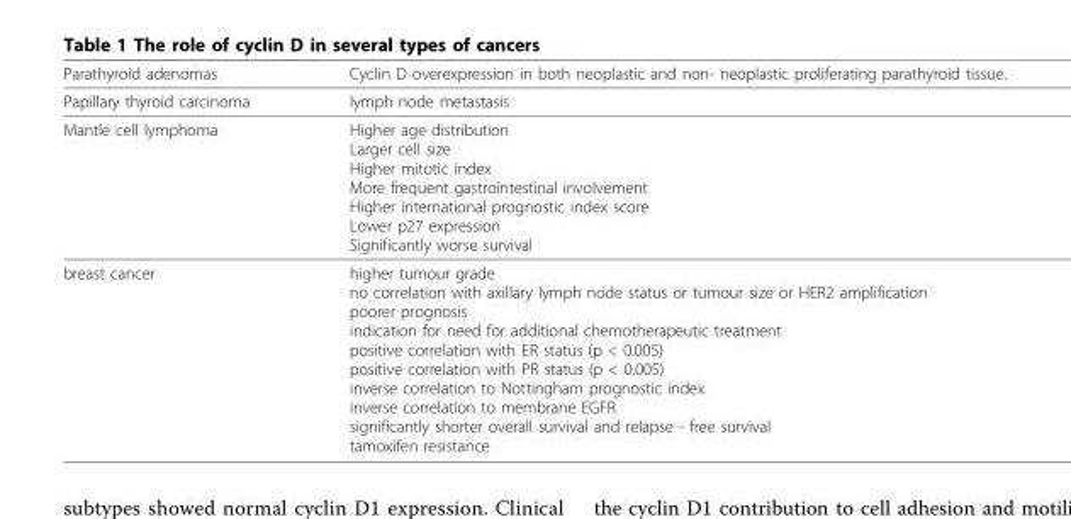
<table><thead><tr><td>Parathyroid adenomas</td><td>Cyclin D overexpression in both neoplastic and non- neoplastic proliferating parathyroid tissue.</td></tr></thead><tbody><tr><td>Papillary thyroid carcinoma</td><td>lymph node metastasis</td></tr><tr><td>Mantle cell lymphoma</td><td>Higher age distribution Larger cell size Higher mitotic index More frequent gastrointestinal involvement Higher international prognostic index score Lower p27 expression Significantly worse survival</td></tr><tr><td>breast cancer</td><td>higher tumour grade no correlation with axillary lymph node status or tumour size or HER2 amplification poorer prognosis indication for need for additional chemotherapeutic treatment positive correlation with ER status (p &lt; 0.005) positive correlation with PR status (p &lt; 0.005) inverse correlation to Nottingham prognostic index inverse correlation to membrane EGFR significantly shorter overall survival and relapse - free survival tamoxifen resistance</td></tr></tbody></table>